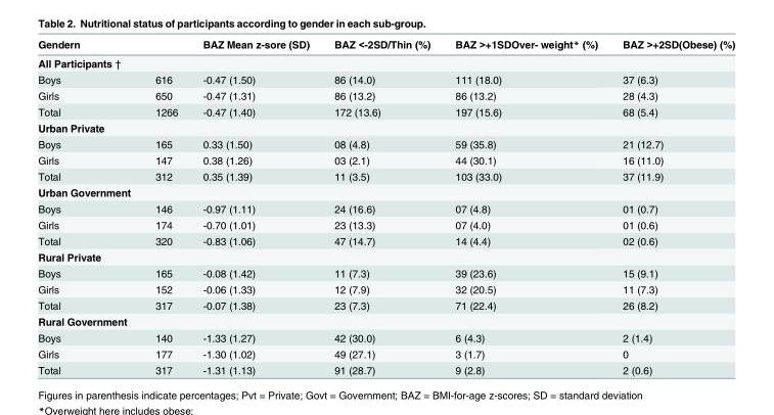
<table><thead><tr><td colspan="2">Gendern</td><td rowspan="2">BAZ Mean z-sore (SD)</td><td rowspan="2">BAZ &lt;-2SD/Thin (%)</td><td rowspan="2">BAZ &gt;+1SDOver- weight* (%)</td><td rowspan="2">BAZ &gt;+2SD(Obese) (%)</td></tr><tr><td>All Participants †</td><td></td></tr></thead><tbody><tr><td>Boys</td><td>616</td><td>-0.47 (1.50)</td><td>86 (14.0)</td><td>111 (18.0)</td><td>37 (6.3)</td></tr><tr><td>Girls</td><td>650</td><td>-0.47 (1.31)</td><td>86 (13.2)</td><td>86 (13.2)</td><td>28 (4.3)</td></tr><tr><td>Total</td><td>1266</td><td>-0.47 (1.40)</td><td>172 (13.6)</td><td>197 (15.6)</td><td>68 (5.4)</td></tr><tr><td colspan="6">Urban Private</td></tr><tr><td>Boys</td><td>165</td><td>0.33 (1.50)</td><td>08 (4.8)</td><td>59 (35.8)</td><td>21 (12.7)</td></tr><tr><td>Girls</td><td>147</td><td>0.38 (1.26)</td><td>03 (2.1)</td><td>44 (30.1)</td><td>16 (11.0)</td></tr><tr><td>Total</td><td>312</td><td>0.35 (1.39)</td><td>11 (3.5)</td><td>103 (33.0)</td><td>37 (11.9)</td></tr><tr><td colspan="6">Urban Government</td></tr><tr><td>Boys</td><td>146</td><td>-0.97 (1.11)</td><td>24 (16.6)</td><td>07 (4.8)</td><td>01 (0.7)</td></tr><tr><td>Girls</td><td>174</td><td>-0.70 (1.01)</td><td>23 (13.3)</td><td>07 (4.0)</td><td>01 (0.6)</td></tr><tr><td>Total</td><td>320</td><td>-0.83 (1.06)</td><td>47 (14.7)</td><td>14 (4.4)</td><td>02 (0.6)</td></tr><tr><td colspan="6">Rural Private</td></tr><tr><td>Boys</td><td>165</td><td>-0.08 (1.42)</td><td>11 (7.3)</td><td>39 (23.6)</td><td>15 (9.1)</td></tr><tr><td>Girls</td><td>152</td><td>-0.06 (1.33)</td><td>12 (7.9)</td><td>32 (20.5)</td><td>11 (7.3)</td></tr><tr><td>Total</td><td>317</td><td>-0.07 (1.38)</td><td>23 (7.3)</td><td>71 (22.4)</td><td>26 (8.2)</td></tr><tr><td colspan="6">Rural Government</td></tr><tr><td>Boys</td><td>140</td><td>-1.33 (1.27)</td><td>42 (30.0)</td><td>6 (4.3)</td><td>2 (1.4)</td></tr><tr><td>Girls</td><td>177</td><td>-1.30 (1.02)</td><td>49 (27.1)</td><td>3 (1.7)</td><td>0</td></tr><tr><td>Total</td><td>317</td><td>-1.31 (1.13)</td><td>91 (28.7)</td><td>9 (2.8)</td><td>2 (0.6)</td></tr></tbody></table>